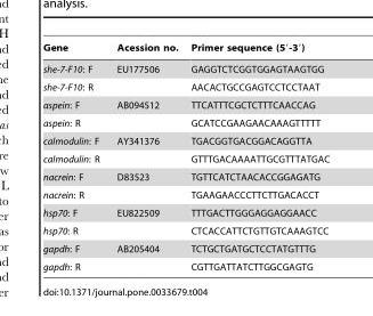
<table><thead><tr><td>Gene</td><td>Acession no.</td><td>Primer sequence (5′-3′)</td></tr></thead><tbody><tr><td>she-7-F10: F</td><td>EU177506</td><td>GAGGTCTCGGTGGAGTAAGTGG</td></tr><tr><td>she-7-F10: R</td><td></td><td>AACACTGCCGAGTCCTCCTAAT</td></tr><tr><td>aspein: F</td><td>AB094512</td><td>TTCATTTCGCTCTTTCAACCAG</td></tr><tr><td>aspein: R</td><td></td><td>GCATCCGAAGAACAAAGTTTTT</td></tr><tr><td>calmodulin: F</td><td>AY341376</td><td>TGACGGTGACGGACAGGTTA</td></tr><tr><td>calmodulin: R</td><td></td><td>GTTTGACAAAATTGCGTTTATGAC</td></tr><tr><td>nacrein: F</td><td>D83523</td><td>TGTTCATCTAACACCGGAGATG</td></tr><tr><td>nacrein: R</td><td></td><td>TGAAGAACCCTTCTTGACACCT</td></tr><tr><td>hsp70: F</td><td>EU822509</td><td>TTTGACTTGGGAGGAGGAACC</td></tr><tr><td>hsp70: R</td><td></td><td>CTCACCATTCTGTTGTCAAAGTCC</td></tr><tr><td>gapdh: F</td><td>AB205404</td><td>TCTGCTGATGCTCCTATGTTTG</td></tr><tr><td>gapdh: R</td><td></td><td>CGTTGATTATCTTGGCGAGTG</td></tr></tbody></table>